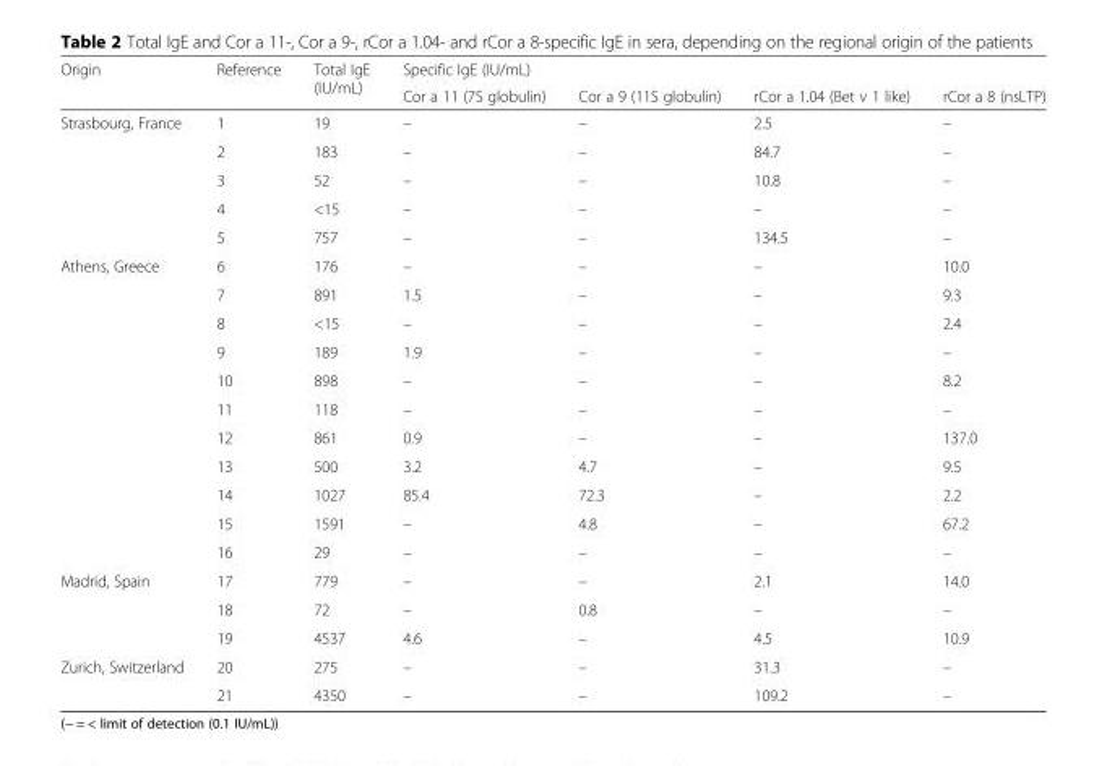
<table><thead><tr><td rowspan="2">Origin</td><td rowspan="2">Reference</td><td rowspan="2">Total IgE (IU/mL)</td><td colspan="4">Specific IgE (IU/mL)</td></tr><tr><td>Cor a 11 (7S globulin)</td><td>Cor a 9 (11S globulin)</td><td>rCor a 1.04 (Bet v 1 like)</td><td>rCor a 8 (nsLTP)</td></tr></thead><tbody><tr><td rowspan="5">Strasbourg, France</td><td>1</td><td>19</td><td>–</td><td>–</td><td>2.5</td><td>–</td></tr><tr><td>2</td><td>183</td><td>–</td><td>–</td><td>84.7</td><td>–</td></tr><tr><td>3</td><td>52</td><td>–</td><td>–</td><td>10.8</td><td>–</td></tr><tr><td>4</td><td>&lt;15</td><td>–</td><td>–</td><td>–</td><td>–</td></tr><tr><td>5</td><td>757</td><td>–</td><td>–</td><td>134.5</td><td>–</td></tr><tr><td rowspan="11">Athens, Greece</td><td>6</td><td>176</td><td>–</td><td>–</td><td>–</td><td>10.0</td></tr><tr><td>7</td><td>891</td><td>1.5</td><td>–</td><td>–</td><td>9.3</td></tr><tr><td>8</td><td>&lt;15</td><td>–</td><td>–</td><td>–</td><td>2.4</td></tr><tr><td>9</td><td>189</td><td>1.9</td><td>–</td><td>–</td><td>–</td></tr><tr><td>10</td><td>898</td><td>–</td><td>–</td><td>–</td><td>8.2</td></tr><tr><td>11</td><td>118</td><td>–</td><td>–</td><td>–</td><td>–</td></tr><tr><td>12</td><td>861</td><td>0.9</td><td>–</td><td>–</td><td>137.0</td></tr><tr><td>13</td><td>500</td><td>3.2</td><td>4.7</td><td>–</td><td>9.5</td></tr><tr><td>14</td><td>1027</td><td>85.4</td><td>72.3</td><td>–</td><td>2.2</td></tr><tr><td>15</td><td>1591</td><td>–</td><td>4.8</td><td>–</td><td>67.2</td></tr><tr><td>16</td><td>29</td><td>–</td><td>–</td><td>–</td><td>–</td></tr><tr><td rowspan="3">Madrid, Spain</td><td>17</td><td>779</td><td>–</td><td>–</td><td>2.1</td><td>14.0</td></tr><tr><td>18</td><td>72</td><td>–</td><td>0.8</td><td>–</td><td>–</td></tr><tr><td>19</td><td>4537</td><td>4.6</td><td>–</td><td>4.5</td><td>10.9</td></tr><tr><td rowspan="2">Zurich, Switzerland</td><td>20</td><td>275</td><td>–</td><td>–</td><td>31.3</td><td>–</td></tr><tr><td>21</td><td>4350</td><td>–</td><td>–</td><td>109.2</td><td>–</td></tr></tbody></table>